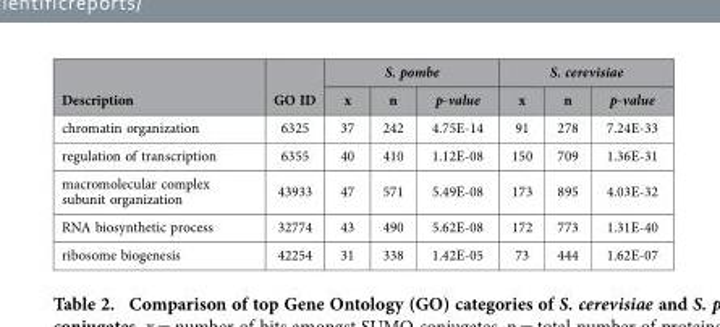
<table><thead><tr><td rowspan="2">Description</td><td rowspan="2">GO ID</td><td colspan="3">S. pombe</td><td colspan="3">S. cerevisiae</td></tr><tr><td>x</td><td>n</td><td>p-value</td><td>x</td><td>n</td><td>p-value</td></tr></thead><tbody><tr><td>chromatin organization</td><td>6325</td><td>37</td><td>242</td><td>4.75E-14</td><td>91</td><td>278</td><td>7.24E-33</td></tr><tr><td>regulation of transcription</td><td>6355</td><td>40</td><td>410</td><td>1.12E-08</td><td>150</td><td>709</td><td>1.36E-31</td></tr><tr><td>macromolecular complex subunit organization</td><td>43933</td><td>47</td><td>571</td><td>5.49E-08</td><td>173</td><td>895</td><td>4.03E-32</td></tr><tr><td>RNA biosynthetic process</td><td>32774</td><td>43</td><td>490</td><td>5.62E-08</td><td>172</td><td>773</td><td>1.31E-40</td></tr><tr><td>ribosome biogenesis</td><td>42254</td><td>31</td><td>338</td><td>1.42E-05</td><td>73</td><td>444</td><td>1.62E-07</td></tr></tbody></table>